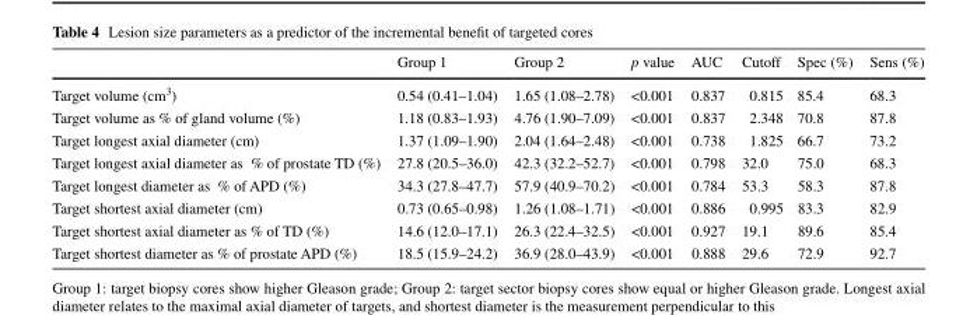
<table><thead><tr><td></td><td>Group 1</td><td>Group 2</td><td>p value</td><td>AUC</td><td>Cutoff</td><td>Spec (%)</td><td>Sens (%)</td></tr></thead><tbody><tr><td>Target volume (cm<sup>3</sup>)</td><td>0.54 (0.41–1.04)</td><td>1.65 (1.08–2.78)</td><td>&lt;0.001</td><td>0.837</td><td>0.815</td><td>85.4</td><td>68.3</td></tr><tr><td>Target volume as % of gland volume (%)</td><td>1.18 (0.83–1.93)</td><td>4.76 (1.90–7.09)</td><td>&lt;0.001</td><td>0.837</td><td>2.348</td><td>70.8</td><td>87.8</td></tr><tr><td>Target longest axial diameter (cm)</td><td>1.37 (1.09–1.90)</td><td>2.04 (1.64–2.48)</td><td>&lt;0.001</td><td>0.738</td><td>1.825</td><td>66.7</td><td>73.2</td></tr><tr><td>Target longest axial diameter as % of prostate TD (%)</td><td>27.8 (20.5–36.0)</td><td>42.3 (32.2–52.7)</td><td>&lt;0.001</td><td>0.798</td><td>32.0</td><td>75.0</td><td>68.3</td></tr><tr><td>Target longest diameter as % of APD (%)</td><td>34.3 (27.8–47.7)</td><td>57.9 (40.9–70.2)</td><td>&lt;0.001</td><td>0.784</td><td>53.3</td><td>58.3</td><td>87.8</td></tr><tr><td>Target shortest axial diameter (cm)</td><td>0.73 (0.65–0.98)</td><td>1.26 (1.08–1.71)</td><td>&lt;0.001</td><td>0.886</td><td>0.995</td><td>83.3</td><td>82.9</td></tr><tr><td>Target shortest axial diameter as % of TD (%)</td><td>14.6 (12.0–17.1)</td><td>26.3 (22.4–32.5)</td><td>&lt;0.001</td><td>0.927</td><td>19.1</td><td>89.6</td><td>85.4</td></tr><tr><td>Target shortest diameter as % of prostate APD (%)</td><td>18.5 (15.9–24.2)</td><td>36.9 (28.0–43.9)</td><td>&lt;0.001</td><td>0.888</td><td>29.6</td><td>72.9</td><td>92.7</td></tr></tbody></table>